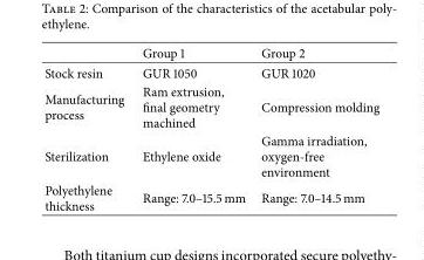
<table><thead><tr><td></td><td>Group 1</td><td>Group 2</td></tr></thead><tbody><tr><td>Stock resin</td><td>GUR 1050</td><td>GUR 1020</td></tr><tr><td>Manufacturing process</td><td>Ram extrusion, final geometry machined</td><td>Compression molding</td></tr><tr><td>Sterilization</td><td>Ethylene oxide</td><td>Gamma irradiation, oxygen-free environment</td></tr><tr><td>Polyethylene thickness</td><td>Range: 7.0–15.5 mm</td><td>Range: 7.0–14.5 mm</td></tr></tbody></table>